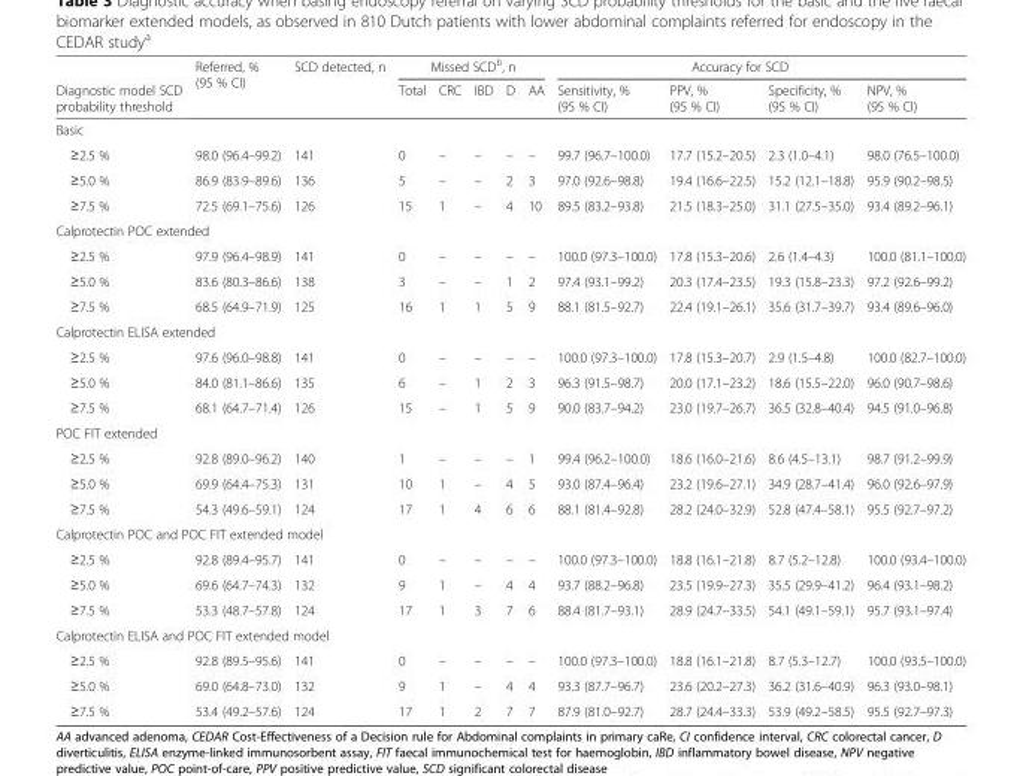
<table><thead><tr><td rowspan="2">Diagnostic model SCD probability threshold</td><td rowspan="2">Referred, % (95 % CI)</td><td rowspan="2">SCD detected, n</td><td colspan="5">Missed SCD<sup>b</sup>, n</td><td colspan="4">Accuracy for SCD</td></tr><tr><td>Total</td><td>CRC</td><td>IBD</td><td>D</td><td>AA</td><td>Sensitivity, % (95 % CI)</td><td>PPV, % (95 % CI)</td><td>Specificity, % (95 % CI)</td><td>NPV, % (95 % CI)</td></tr></thead><tbody><tr><td colspan="12">Basic</td></tr><tr><td>≥2.5 %</td><td>98.0 (96.4–99.2)</td><td>141</td><td>0</td><td>–</td><td>–</td><td>–</td><td>–</td><td>99.7 (96.7–100.0)</td><td>17.7 (15.2–20.5)</td><td>2.3 (1.0–4.1)</td><td>98.0 (76.5–100.0)</td></tr><tr><td>≥5.0 %</td><td>86.9 (83.9–89.6)</td><td>136</td><td>5</td><td>–</td><td>–</td><td>2</td><td>3</td><td>97.0 (92.6–98.8)</td><td>19.4 (16.6–22.5)</td><td>15.2 (12.1–18.8)</td><td>95.9 (90.2–98.5)</td></tr><tr><td>≥7.5 %</td><td>72.5 (69.1–75.6)</td><td>126</td><td>15</td><td>1</td><td>–</td><td>4</td><td>10</td><td>89.5 (83.2–93.8)</td><td>21.5 (18.3–25.0)</td><td>31.1 (27.5–35.0)</td><td>93.4 (89.2–96.1)</td></tr><tr><td colspan="12">Calprotectin POC extended</td></tr><tr><td>≥2.5 %</td><td>97.9 (96.4–98.9)</td><td>141</td><td>0</td><td>–</td><td>–</td><td>–</td><td>–</td><td>100.0 (97.3–100.0)</td><td>17.8 (15.3–20.6)</td><td>2.6 (1.4–4.3)</td><td>100.0 (81.1–100.0)</td></tr><tr><td>≥5.0 %</td><td>83.6 (80.3–86.6)</td><td>138</td><td>3</td><td>–</td><td>–</td><td>1</td><td>2</td><td>97.4 (93.1–99.2)</td><td>20.3 (17.4–23.5)</td><td>19.3 (15.8–23.3)</td><td>97.2 (92.6–99.2)</td></tr><tr><td>≥7.5 %</td><td>68.5 (64.9–71.9)</td><td>125</td><td>16</td><td>1</td><td>1</td><td>5</td><td>9</td><td>88.1 (81.5–92.7)</td><td>22.4 (19.1–26.1)</td><td>35.6 (31.7–39.7)</td><td>93.4 (89.6–96.0)</td></tr><tr><td colspan="12">Calprotectin ELISA extended</td></tr><tr><td>≥2.5 %</td><td>97.6 (96.0–98.8)</td><td>141</td><td>0</td><td>–</td><td>–</td><td>–</td><td>–</td><td>100.0 (97.3–100.0)</td><td>17.8 (15.3–20.7)</td><td>2.9 (1.5–4.8)</td><td>100.0 (82.7–100.0)</td></tr><tr><td>≥5.0 %</td><td>84.0 (81.1–86.6)</td><td>135</td><td>6</td><td>–</td><td>1</td><td>2</td><td>3</td><td>96.3 (91.5–98.7)</td><td>20.0 (17.1–23.2)</td><td>18.6 (15.5–22.0)</td><td>96.0 (90.7–98.6)</td></tr><tr><td>≥7.5 %</td><td>68.1 (64.7–71.4)</td><td>126</td><td>15</td><td>–</td><td>1</td><td>5</td><td>9</td><td>90.0 (83.7–94.2)</td><td>23.0 (19.7–26.7)</td><td>36.5 (32.8–40.4)</td><td>94.5 (91.0–96.8)</td></tr><tr><td colspan="12">POC FIT extended</td></tr><tr><td>≥2.5 %</td><td>92.8 (89.0–96.2)</td><td>140</td><td>1</td><td>–</td><td>–</td><td>–</td><td>1</td><td>99.4 (96.2–100.0)</td><td>18.6 (16.0–21.6)</td><td>8.6 (4.5–13.1)</td><td>98.7 (91.2–99.9)</td></tr><tr><td>≥5.0 %</td><td>69.9 (64.4–75.3)</td><td>131</td><td>10</td><td>1</td><td>–</td><td>4</td><td>5</td><td>93.0 (87.4–96.4)</td><td>23.2 (19.6–27.1)</td><td>34.9 (28.7–41.4)</td><td>96.0 (92.6–97.9)</td></tr><tr><td>≥7.5 %</td><td>54.3 (49.6–59.1)</td><td>124</td><td>17</td><td>1</td><td>4</td><td>6</td><td>6</td><td>88.1 (81.4–92.8)</td><td>28.2 (24.0–32.9)</td><td>52.8 (47.4–58.1)</td><td>95.5 (92.7–97.2)</td></tr><tr><td colspan="12">Calprotectin POC and POC FIT extended model</td></tr><tr><td>≥2.5 %</td><td>92.8 (89.4–95.7)</td><td>141</td><td>0</td><td>–</td><td>–</td><td>–</td><td>–</td><td>100.0 (97.3–100.0)</td><td>18.8 (16.1–21.8)</td><td>8.7 (5.2–12.8)</td><td>100.0 (93.4–100.0)</td></tr><tr><td>≥5.0 %</td><td>69.6 (64.7–74.3)</td><td>132</td><td>9</td><td>1</td><td>–</td><td>4</td><td>4</td><td>93.7 (88.2–96.8)</td><td>23.5 (19.9–27.3)</td><td>35.5 (29.9–41.2)</td><td>96.4 (93.1–98.2)</td></tr><tr><td>≥7.5 %</td><td>53.3 (48.7–57.8)</td><td>124</td><td>17</td><td>1</td><td>3</td><td>7</td><td>6</td><td>88.4 (81.7–93.1)</td><td>28.9 (24.7–33.5)</td><td>54.1 (49.1–59.1)</td><td>95.7 (93.1–97.4)</td></tr><tr><td colspan="12">Calprotectin ELISA and POC FIT extended model</td></tr><tr><td>≥2.5 %</td><td>92.8 (89.5–95.6)</td><td>141</td><td>0</td><td>–</td><td>–</td><td>–</td><td>–</td><td>100.0 (97.3–100.0)</td><td>18.8 (16.1–21.8)</td><td>8.7 (5.3–12.7)</td><td>100.0 (93.5–100.0)</td></tr><tr><td>≥5.0 %</td><td>69.0 (64.8–73.0)</td><td>132</td><td>9</td><td>1</td><td>–</td><td>4</td><td>4</td><td>93.3 (87.7–96.7)</td><td>23.6 (20.2–27.3)</td><td>36.2 (31.6–40.9)</td><td>96.3 (93.0–98.1)</td></tr><tr><td>≥7.5 %</td><td>53.4 (49.2–57.6)</td><td>124</td><td>17</td><td>1</td><td>2</td><td>7</td><td>7</td><td>87.9 (81.0–92.7)</td><td>28.7 (24.4–33.3)</td><td>53.9 (49.2–58.5)</td><td>95.5 (92.7–97.3)</td></tr></tbody></table>